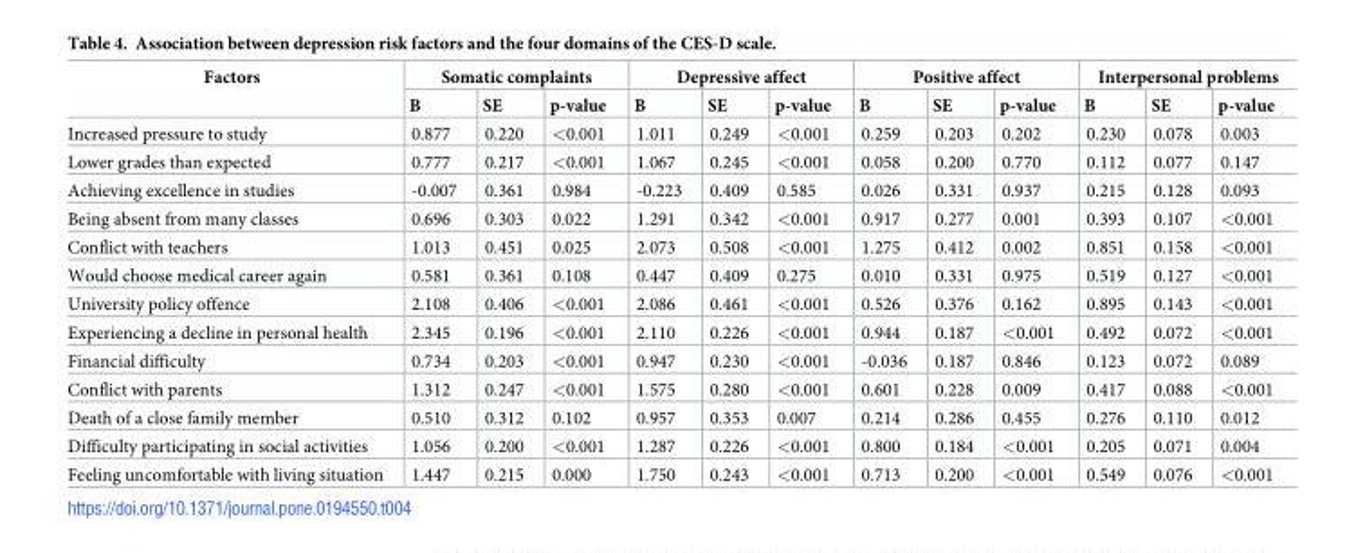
<table><thead><tr><td rowspan="2">Factors</td><td colspan="3">Somatic complaints</td><td colspan="3">Depressive affect</td><td colspan="3">Positive affect</td><td colspan="3">Interpersonal problems</td></tr><tr><td>B</td><td>SE</td><td>p-value</td><td>B</td><td>SE</td><td>p-value</td><td>B</td><td>SE</td><td>p-value</td><td>B</td><td>SE</td><td>p-value</td></tr></thead><tbody><tr><td>Increased pressure to study</td><td>0.877</td><td>0.220</td><td>&lt;0.001</td><td>1.011</td><td>0.249</td><td>&lt;0.001</td><td>0.259</td><td>0.203</td><td>0.202</td><td>0.230</td><td>0.078</td><td>0.003</td></tr><tr><td>Lower grades than expected</td><td>0.777</td><td>0.217</td><td>&lt;0.001</td><td>1.067</td><td>0.245</td><td>&lt;0.001</td><td>0.058</td><td>0.200</td><td>0.770</td><td>0.112</td><td>0.077</td><td>0.147</td></tr><tr><td>Achieving excellence in studies</td><td>-0.007</td><td>0.361</td><td>0.984</td><td>-0.223</td><td>0.409</td><td>0.585</td><td>0.026</td><td>0.331</td><td>0.937</td><td>0.215</td><td>0.128</td><td>0.093</td></tr><tr><td>Being absent from many classes</td><td>0.696</td><td>0.303</td><td>0.022</td><td>1.291</td><td>0.342</td><td>&lt;0.001</td><td>0.917</td><td>0.277</td><td>0.001</td><td>0.393</td><td>0.107</td><td>&lt;0.001</td></tr><tr><td>Conflict with teachers</td><td>1.013</td><td>0.451</td><td>0.025</td><td>2.073</td><td>0.508</td><td>&lt;0.001</td><td>1.275</td><td>0.412</td><td>0.002</td><td>0.851</td><td>0.158</td><td>&lt;0.001</td></tr><tr><td>Would choose medical career again</td><td>0.581</td><td>0.361</td><td>0.108</td><td>0.447</td><td>0.409</td><td>0.275</td><td>0.010</td><td>0.331</td><td>0.975</td><td>0.519</td><td>0.127</td><td>&lt;0.001</td></tr><tr><td>University policy offence</td><td>2.108</td><td>0.406</td><td>&lt;0.001</td><td>2.086</td><td>0.461</td><td>&lt;0.001</td><td>0.526</td><td>0.376</td><td>0.162</td><td>0.895</td><td>0.143</td><td>&lt;0.001</td></tr><tr><td>Experiencing a decline in personal health</td><td>2.345</td><td>0.196</td><td>&lt;0.001</td><td>2.110</td><td>0.226</td><td>&lt;0.001</td><td>0.944</td><td>0.187</td><td>&lt;0.001</td><td>0.492</td><td>0.072</td><td>&lt;0.001</td></tr><tr><td>Financial difficulty</td><td>0.734</td><td>0.203</td><td>&lt;0.001</td><td>0.947</td><td>0.230</td><td>&lt;0.001</td><td>-0.036</td><td>0.187</td><td>0.846</td><td>0.123</td><td>0.072</td><td>0.089</td></tr><tr><td>Conflict with parents</td><td>1.312</td><td>0.247</td><td>&lt;0.001</td><td>1.575</td><td>0.280</td><td>&lt;0.001</td><td>0.601</td><td>0.228</td><td>0.009</td><td>0.417</td><td>0.088</td><td>&lt;0.001</td></tr><tr><td>Death of a close family member</td><td>0.510</td><td>0.312</td><td>0.102</td><td>0.957</td><td>0.353</td><td>0.007</td><td>0.214</td><td>0.286</td><td>0.455</td><td>0.276</td><td>0.110</td><td>0.012</td></tr><tr><td>Difficulty participating in social activities</td><td>1.056</td><td>0.200</td><td>&lt;0.001</td><td>1.287</td><td>0.226</td><td>&lt;0.001</td><td>0.800</td><td>0.184</td><td>&lt;0.001</td><td>0.205</td><td>0.071</td><td>0.004</td></tr><tr><td>Feeling uncomfortable with living situation</td><td>1.447</td><td>0.215</td><td>0.000</td><td>1.750</td><td>0.243</td><td>&lt;0.001</td><td>0.713</td><td>0.200</td><td>&lt;0.001</td><td>0.549</td><td>0.076</td><td>&lt;0.001</td></tr></tbody></table>